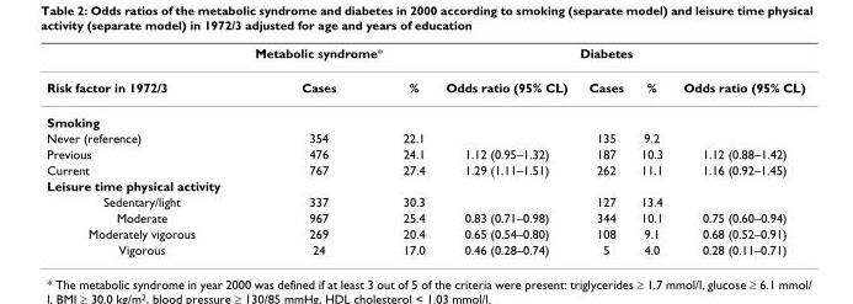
<table><thead><tr><td rowspan="2">Risk factor in 1972/3</td><td rowspan="2">Metabolic syndrome* Cases</td><td colspan="5">Diabetes</td></tr><tr><td>%</td><td>Odds ratio (95% CL)</td><td>Cases</td><td>%</td><td>Odds ratio (95% CL)</td></tr></thead><tbody><tr><td colspan="7">Smoking</td></tr><tr><td>Never (reference)</td><td>354</td><td>22.1</td><td></td><td>135</td><td>9.2</td><td></td></tr><tr><td>Previous</td><td>476</td><td>24.1</td><td>1.12 (0.95–1.32)</td><td>187</td><td>10.3</td><td>1.12 (0.88–1.42)</td></tr><tr><td>Current</td><td>767</td><td>27.4</td><td>1.29 (1.11–1.51)</td><td>262</td><td>11.1</td><td>1.16 (0.92–1.45)</td></tr><tr><td colspan="7">Leisure time physical activity</td></tr><tr><td>Sedentary/light</td><td>337</td><td>30.3</td><td></td><td>127</td><td>13.4</td><td></td></tr><tr><td>Moderate</td><td>967</td><td>25.4</td><td>0.83 (0.71–0.98)</td><td>344</td><td>10.1</td><td>0.75 (0.60–0.94)</td></tr><tr><td>Moderately vigorous</td><td>269</td><td>20.4</td><td>0.65 (0.54–0.80)</td><td>108</td><td>9.1</td><td>0.68 (0.52–0.91)</td></tr><tr><td>Vigorous</td><td>24</td><td>17.0</td><td>0.46 (0.28–0.74)</td><td>5</td><td>4.0</td><td>0.28 (0.11–0.71)</td></tr></tbody></table>